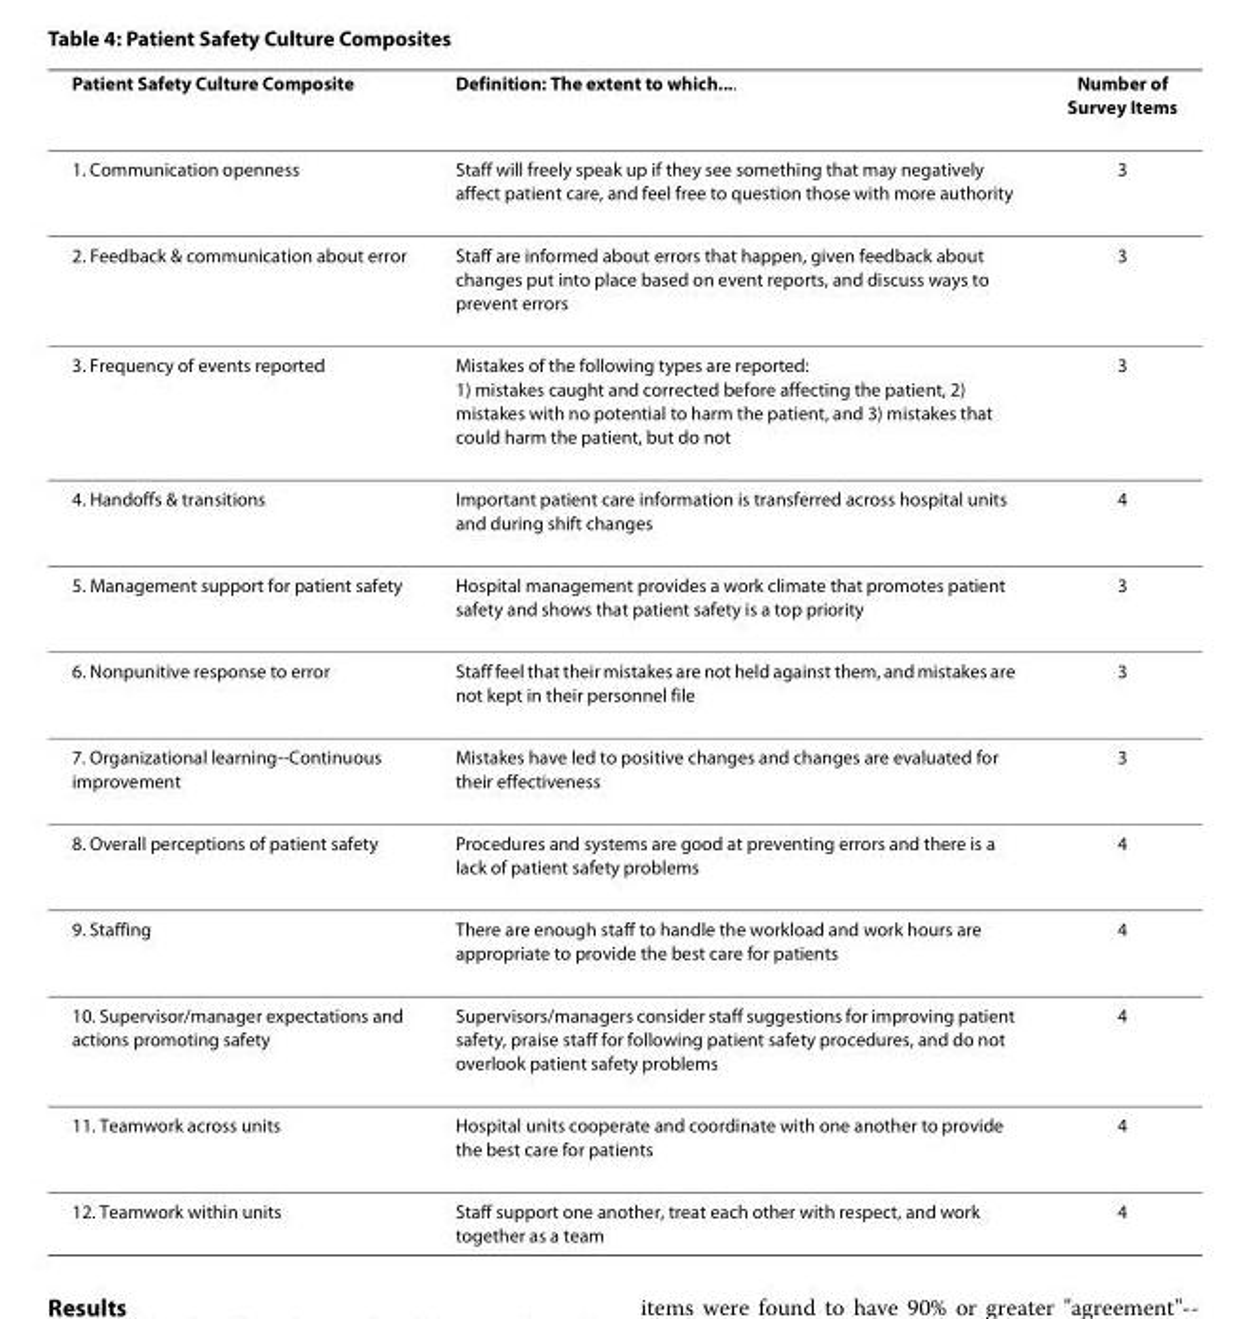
<table><thead><tr><td>Patient Safety Culture Composite</td><td>Definition: The extent to which....</td><td>Number of Survey Items</td></tr></thead><tbody><tr><td>1. Communication openness</td><td>Staff will freely speak up if they see something that may negatively affect patient care, and feel free to question those with more authority</td><td>3</td></tr><tr><td>2. Feedback &amp; communication about error</td><td>Staff are informed about errors that happen, given feedback about changes put into place based on event reports, and discuss ways to prevent errors</td><td>3</td></tr><tr><td>3. Frequency of events reported</td><td>Mistakes of the following types are reported: 1) mistakes caught and corrected before affecting the patient, 2) mistakes with no potential to harm the patient, and 3) mistakes that could harm the patient, but do not</td><td>3</td></tr><tr><td>4. Handoffs &amp; transitions</td><td>Important patient care information is transferred across hospital units and during shift changes</td><td>4</td></tr><tr><td>5. Management support for patient safety</td><td>Hospital management provides a work climate that promotes patient safety and shows that patient safety is a top priority</td><td>3</td></tr><tr><td>6. Nonpunitive response to error</td><td>Staff feel that their mistakes are not held against them, and mistakes are not kept in their personnel file</td><td>3</td></tr><tr><td>7. Organizational learning--Continuous improvement</td><td>Mistakes have led to positive changes and changes are evaluated for their effectiveness</td><td>3</td></tr><tr><td>8. Overall perceptions of patient safety</td><td>Procedures and systems are good at preventing errors and there is a lack of patient safety problems</td><td>4</td></tr><tr><td>9. Staffing</td><td>There are enough staff to handle the workload and work hours are appropriate to provide the best care for patients</td><td>4</td></tr><tr><td>10. Supervisor/manager expectations and actions promoting safety</td><td>Supervisors/managers consider staff suggestions for improving patient safety, praise staff for following patient safety procedures, and do not overlook patient safety problems</td><td>4</td></tr><tr><td>11. Teamwork across units</td><td>Hospital units cooperate and coordinate with one another to provide the best care for patients</td><td>4</td></tr><tr><td>12. Teamwork within units</td><td>Staff support one another, treat each other with respect, and work together as a team</td><td>4</td></tr></tbody></table>